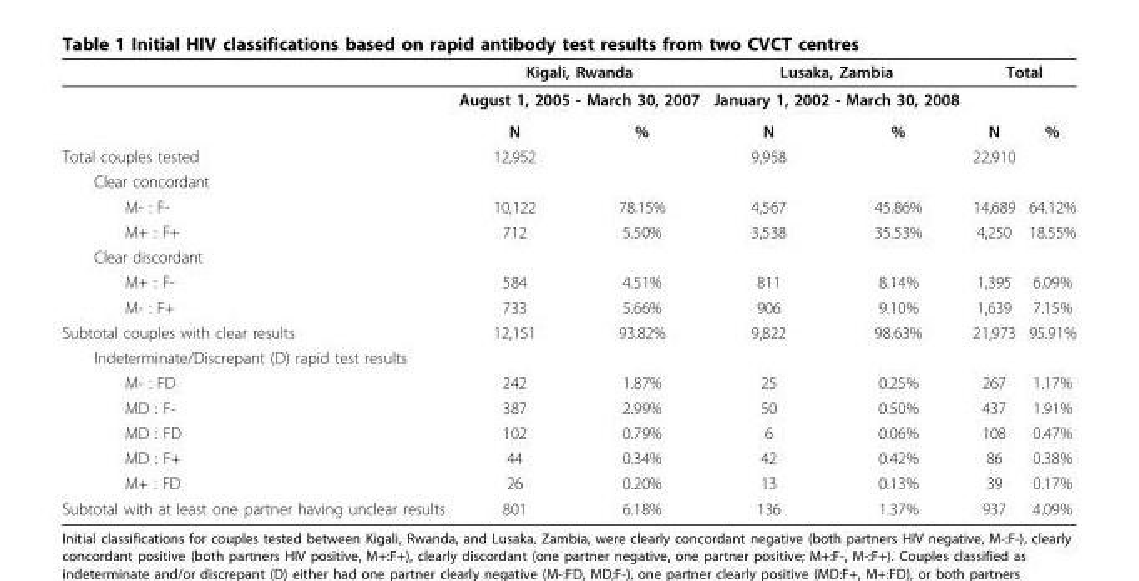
<table><thead><tr><td rowspan="3"></td><td rowspan="2" colspan="2">Kigali, Rwanda August 1, 2005 - March 30, 2007</td><td rowspan="2" colspan="2">Lusaka, Zambia January 1, 2002 - March 30, 2008</td><td rowspan="2" colspan="2">Total</td></tr><tr></tr><tr><td>N</td><td>%</td><td>N</td><td>%</td><td>N</td><td>%</td></tr></thead><tbody><tr><td>Total couples tested</td><td>12,952</td><td></td><td>9,958</td><td></td><td>22,910</td><td></td></tr><tr><td colspan="7">Clear concordant</td></tr><tr><td>M- : F-</td><td>10,122</td><td>78.15%</td><td>4,567</td><td>45.86%</td><td>14,689</td><td>64.12%</td></tr><tr><td>M+ : F+</td><td>712</td><td>5.50%</td><td>3,538</td><td>35.53%</td><td>4,250</td><td>18.55%</td></tr><tr><td colspan="7">Clear discordant</td></tr><tr><td>M+ : F-</td><td>584</td><td>4.51%</td><td>811</td><td>8.14%</td><td>1,395</td><td>6.09%</td></tr><tr><td>M- : F+</td><td>733</td><td>5.66%</td><td>906</td><td>9.10%</td><td>1,639</td><td>7.15%</td></tr><tr><td>Subtotal couples with clear results</td><td>12,151</td><td>93.82%</td><td>9,822</td><td>98.63%</td><td>21,973</td><td>95.91%</td></tr><tr><td colspan="7">Indeterminate/Discrepant (D) rapid test results</td></tr><tr><td>M- : FD</td><td>242</td><td>1.87%</td><td>25</td><td>0.25%</td><td>267</td><td>1.17%</td></tr><tr><td>MD : F-</td><td>387</td><td>2.99%</td><td>50</td><td>0.50%</td><td>437</td><td>1.91%</td></tr><tr><td>MD : FD</td><td>102</td><td>0.79%</td><td>6</td><td>0.06%</td><td>108</td><td>0.47%</td></tr><tr><td>MD : F+</td><td>44</td><td>0.34%</td><td>42</td><td>0.42%</td><td>86</td><td>0.38%</td></tr><tr><td>M+ : FD</td><td>26</td><td>0.20%</td><td>13</td><td>0.13%</td><td>39</td><td>0.17%</td></tr><tr><td>Subtotal with at least one partner having unclear results</td><td>801</td><td>6.18%</td><td>136</td><td>1.37%</td><td>937</td><td>4.09%</td></tr></tbody></table>